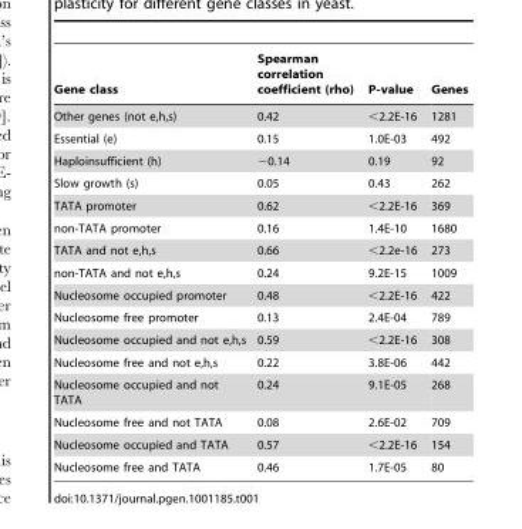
<table><thead><tr><td>Gene class</td><td>Spearman correlation coefficient (rho)</td><td>P-value</td><td>Genes</td></tr></thead><tbody><tr><td>Other genes (not e,h,s)</td><td>0.42</td><td>&lt;2.2E-16</td><td>1281</td></tr><tr><td>Essential (e)</td><td>0.15</td><td>1.0E-03</td><td>492</td></tr><tr><td>Haploinsufficient (h)</td><td>−0.14</td><td>0.19</td><td>92</td></tr><tr><td>Slow growth (s)</td><td>0.05</td><td>0.43</td><td>262</td></tr><tr><td>TATA promoter</td><td>0.62</td><td>&lt;2.2E-16</td><td>369</td></tr><tr><td>non-TATA promoter</td><td>0.16</td><td>1.4E-10</td><td>1680</td></tr><tr><td>TATA and not e,h,s</td><td>0.66</td><td>&lt;2.2e-16</td><td>273</td></tr><tr><td>non-TATA and not e,h,s</td><td>0.24</td><td>9.2E-15</td><td>1009</td></tr><tr><td>Nucleosome occupied promoter</td><td>0.48</td><td>&lt;2.2E-16</td><td>422</td></tr><tr><td>Nucleosome free promoter</td><td>0.13</td><td>2.4E-04</td><td>789</td></tr><tr><td>Nucleosome occupied and not e,h,s</td><td>0.59</td><td>&lt;2.2E-16</td><td>308</td></tr><tr><td>Nucleosome free and not e,h,s</td><td>0.22</td><td>3.8E-06</td><td>442</td></tr><tr><td>Nucleosome occupied and not TATA</td><td>0.24</td><td>9.1E-05</td><td>268</td></tr><tr><td>Nucleosome free and not TATA</td><td>0.08</td><td>2.6E-02</td><td>709</td></tr><tr><td>Nucleosome occupied and TATA</td><td>0.57</td><td>&lt;2.2E-16</td><td>154</td></tr><tr><td>Nucleosome free and TATA</td><td>0.46</td><td>1.7E-05</td><td>80</td></tr></tbody></table>